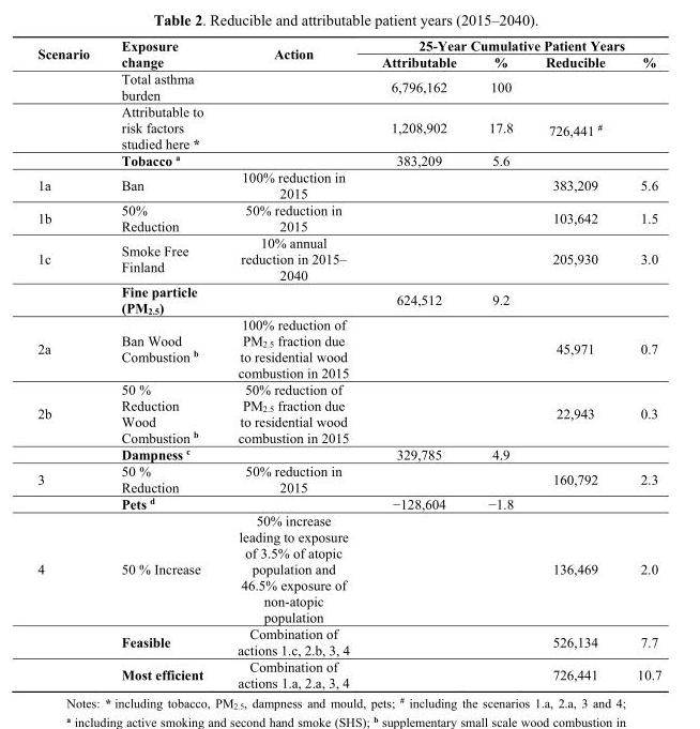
<table><thead><tr><td rowspan="2">Scenario</td><td rowspan="2">Exposure change</td><td rowspan="2">Action</td><td colspan="4">25-Year Cumulative Patient Years</td></tr><tr><td>Attributable</td><td>%</td><td>Reducible</td><td>%</td></tr></thead><tbody><tr><td></td><td>Total asthma burden</td><td></td><td>6,796,162</td><td>100</td><td></td><td></td></tr><tr><td></td><td>Attributable to risk factors studied here *</td><td></td><td>1,208,902</td><td>17.8</td><td>726,441 <sup>#</sup></td><td></td></tr><tr><td></td><td>Tobacco <sup>a</sup></td><td></td><td>383,209</td><td>5.6</td><td></td><td></td></tr><tr><td>1a</td><td>Ban</td><td>100% reduction in 2015</td><td></td><td></td><td>383,209</td><td>5.6</td></tr><tr><td>1b</td><td>50% Reduction</td><td>50% reduction in 2015</td><td></td><td></td><td>103,642</td><td>1.5</td></tr><tr><td rowspan="2">1c</td><td>Smoke Free Finland</td><td>10% annual reduction in 2015– 2040</td><td></td><td></td><td>205,930</td><td>3.0</td></tr><tr><td>Fine particle (PM<sub>2.5</sub>)</td><td></td><td>624,512</td><td>9.2</td><td></td><td></td></tr><tr><td>2a</td><td>Ban Wood Combustion <sup>b</sup></td><td>100% reduction of PM<sub>2.5</sub> fraction due to residential wood combustion in 2015</td><td></td><td></td><td>45,971</td><td>0.7</td></tr><tr><td rowspan="2">2b</td><td>50 % Reduction Wood Combustion <sup>b</sup></td><td>50% reduction of PM<sub>2.5</sub> fraction due to residential wood combustion in 2015</td><td></td><td></td><td>22,943</td><td>0.3</td></tr><tr><td>Dampness <sup>c</sup></td><td></td><td>329,785</td><td>4.9</td><td></td><td></td></tr><tr><td rowspan="2">3</td><td>50 % Reduction</td><td>50% reduction in 2015</td><td></td><td></td><td>160,792</td><td>2.3</td></tr><tr><td>Pets <sup>d</sup></td><td></td><td>−128,604</td><td>−1.8</td><td></td><td></td></tr><tr><td rowspan="3">4</td><td>50 % Increase</td><td>50% increase leading to exposure of 3.5% of atopic population and 46.5% exposure of non-atopic population</td><td></td><td></td><td>136,469</td><td>2.0</td></tr><tr><td>Feasible</td><td>Combination of actions 1.c, 2.b, 3, 4</td><td></td><td></td><td>526,134</td><td>7.7</td></tr><tr><td>Most efficient</td><td>Combination of actions 1.a, 2.a, 3, 4</td><td></td><td></td><td>726,441</td><td>10.7</td></tr></tbody></table>